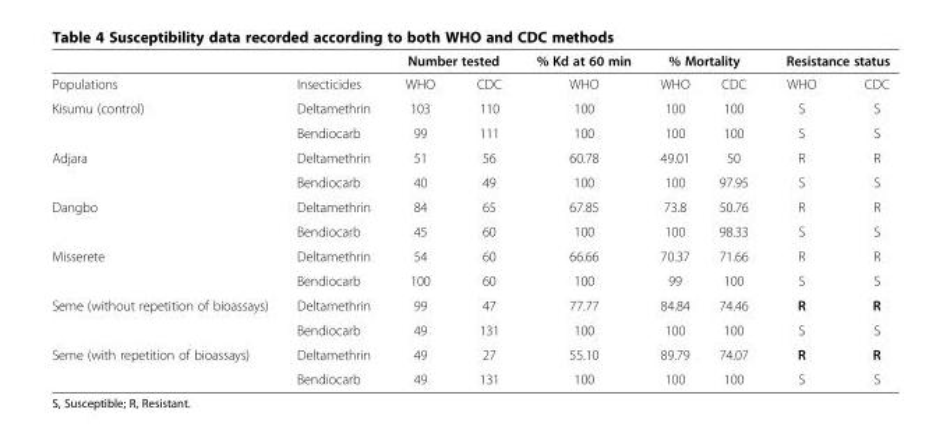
<table><thead><tr><td rowspan="2">Populations</td><td rowspan="2">Insecticides</td><td colspan="2">Number tested</td><td rowspan="2">% Kd at 60 min WHO</td><td colspan="2">% Mortality</td><td colspan="2">Resistance status</td></tr><tr><td>WHO</td><td>CDC</td><td>WHO</td><td>CDC</td><td>WHO</td><td>CDC</td></tr></thead><tbody><tr><td rowspan="2">Kisumu (control)</td><td>Deltamethrin</td><td>103</td><td>110</td><td>100</td><td>100</td><td>100</td><td>S</td><td>S</td></tr><tr><td>Bendiocarb</td><td>99</td><td>111</td><td>100</td><td>100</td><td>100</td><td>S</td><td>S</td></tr><tr><td rowspan="2">Adjara</td><td>Deltamethrin</td><td>51</td><td>56</td><td>60.78</td><td>49.01</td><td>50</td><td>R</td><td>R</td></tr><tr><td>Bendiocarb</td><td>40</td><td>49</td><td>100</td><td>100</td><td>97.95</td><td>S</td><td>S</td></tr><tr><td rowspan="2">Dangbo</td><td>Deltamethrin</td><td>84</td><td>65</td><td>67.85</td><td>73.8</td><td>50.76</td><td>R</td><td>R</td></tr><tr><td>Bendiocarb</td><td>45</td><td>60</td><td>100</td><td>100</td><td>98.33</td><td>S</td><td>S</td></tr><tr><td rowspan="2">Misserete</td><td>Deltamethrin</td><td>54</td><td>60</td><td>66.66</td><td>70.37</td><td>71.66</td><td>R</td><td>R</td></tr><tr><td>Bendiocarb</td><td>100</td><td>60</td><td>100</td><td>99</td><td>100</td><td>S</td><td>S</td></tr><tr><td rowspan="2">Seme (without repetition of bioassays)</td><td>Deltamethrin</td><td>99</td><td>47</td><td>77.77</td><td>84.84</td><td>74.46</td><td>R</td><td>R</td></tr><tr><td>Bendiocarb</td><td>49</td><td>131</td><td>100</td><td>100</td><td>100</td><td>S</td><td>S</td></tr><tr><td rowspan="2">Seme (with repetition of bioassays)</td><td>Deltamethrin</td><td>49</td><td>27</td><td>55.10</td><td>89.79</td><td>74.07</td><td>R</td><td>R</td></tr><tr><td>Bendiocarb</td><td>49</td><td>131</td><td>100</td><td>100</td><td>100</td><td>S</td><td>S</td></tr></tbody></table>